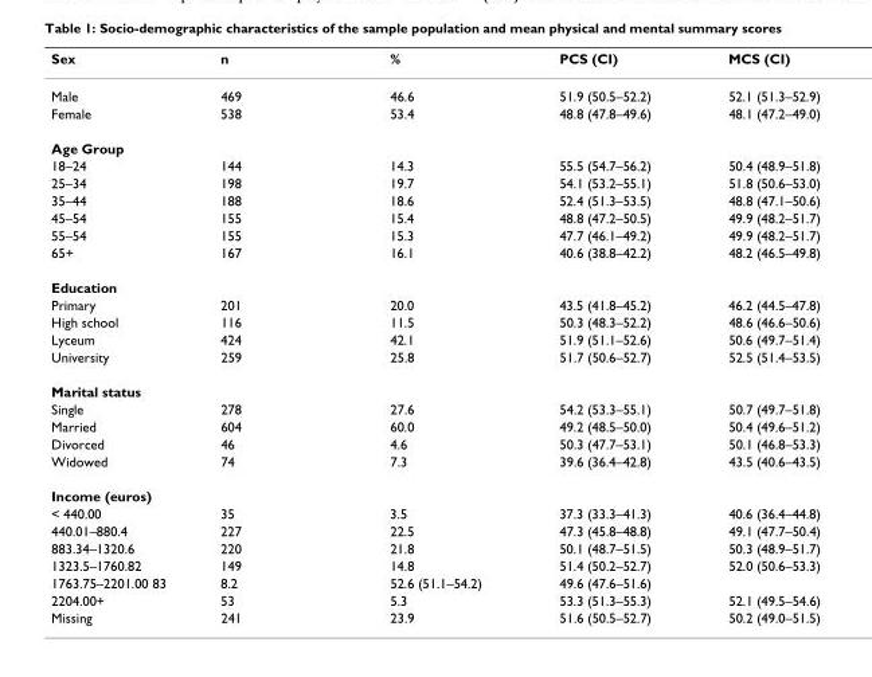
<table><thead><tr><td>Sex</td><td>n</td><td>%</td><td>PCS (CI)</td><td>MCS (CI)</td></tr></thead><tbody><tr><td>Male</td><td>469</td><td>46.6</td><td>51.9 (50.5–52.2)</td><td>52.1 (51.3–52.9)</td></tr><tr><td>Female</td><td>538</td><td>53.4</td><td>48.8 (47.8–49.6)</td><td>48.1 (47.2–49.0)</td></tr><tr><td colspan="5">Age Group</td></tr><tr><td>18–24</td><td>144</td><td>14.3</td><td>55.5 (54.7–56.2)</td><td>50.4 (48.9–51.8)</td></tr><tr><td>25–34</td><td>198</td><td>19.7</td><td>54.1 (53.2–55.1)</td><td>51.8 (50.6–53.0)</td></tr><tr><td>35–44</td><td>188</td><td>18.6</td><td>52.4 (51.3–53.5)</td><td>48.8 (47.1–50.6)</td></tr><tr><td>45–54</td><td>155</td><td>15.4</td><td>48.8 (47.2–50.5)</td><td>49.9 (48.2–51.7)</td></tr><tr><td>55–54</td><td>155</td><td>15.3</td><td>47.7 (46.1–49.2)</td><td>49.9 (48.2–51.7)</td></tr><tr><td>65+</td><td>167</td><td>16.1</td><td>40.6 (38.8–42.2)</td><td>48.2 (46.5–49.8)</td></tr><tr><td colspan="5">Education</td></tr><tr><td>Primary</td><td>201</td><td>20.0</td><td>43.5 (41.8–45.2)</td><td>46.2 (44.5–47.8)</td></tr><tr><td>High school</td><td>116</td><td>11.5</td><td>50.3 (48.3–52.2)</td><td>48.6 (46.6–50.6)</td></tr><tr><td>Lyceum</td><td>424</td><td>42.1</td><td>51.9 (51.1–52.6)</td><td>50.6 (49.7–51.4)</td></tr><tr><td>University</td><td>259</td><td>25.8</td><td>51.7 (50.6–52.7)</td><td>52.5 (51.4–53.5)</td></tr><tr><td colspan="5">Marital status</td></tr><tr><td>Single</td><td>278</td><td>27.6</td><td>54.2 (53.3–55.1)</td><td>50.7 (49.7–51.8)</td></tr><tr><td>Married</td><td>604</td><td>60.0</td><td>49.2 (48.5–50.0)</td><td>50.4 (49.6–51.2)</td></tr><tr><td>Divorced</td><td>46</td><td>4.6</td><td>50.3 (47.7–53.1)</td><td>50.1 (46.8–53.3)</td></tr><tr><td>Widowed</td><td>74</td><td>7.3</td><td>39.6 (36.4–42.8)</td><td>43.5 (40.6–43.5)</td></tr><tr><td colspan="5">Income (euros)</td></tr><tr><td>&lt; 440.00</td><td>35</td><td>3.5</td><td>37.3 (33.3–41.3)</td><td>40.6 (36.4–44.8)</td></tr><tr><td>440.01–880.4</td><td>227</td><td>22.5</td><td>47.3 (45.8–48.8)</td><td>49.1 (47.7–50.4)</td></tr><tr><td>883.34–1320.6</td><td>220</td><td>21.8</td><td>50.1 (48.7–51.5)</td><td>50.3 (48.9–51.7)</td></tr><tr><td>1323.5–1760.82</td><td>149</td><td>14.8</td><td>51.4 (50.2–52.7)</td><td>52.0 (50.6–53.3)</td></tr><tr><td>1763.75–2201.00 83</td><td>8.2</td><td>52.6 (51.1–54.2)</td><td>49.6 (47.6–51.6)</td><td></td></tr><tr><td>2204.00+</td><td>53</td><td>5.3</td><td>53.3 (51.3–55.3)</td><td>52.1 (49.5–54.6)</td></tr><tr><td>Missing</td><td>241</td><td>23.9</td><td>51.6 (50.5–52.7)</td><td>50.2 (49.0–51.5)</td></tr></tbody></table>